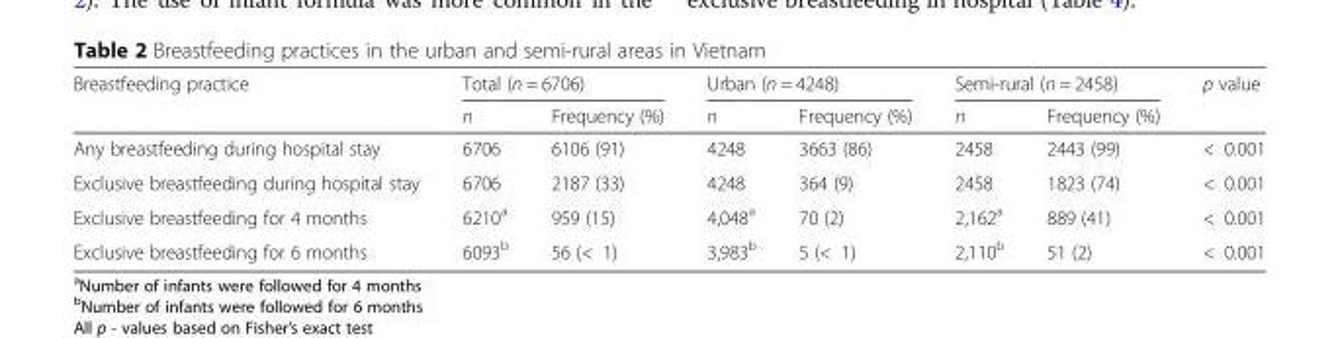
<table><thead><tr><td rowspan="2">Breastfeeding practice</td><td colspan="2">Total (n = 6706)</td><td colspan="2">Urban (n = 4248)</td><td colspan="2">Semi-rural (n = 2458)</td><td rowspan="2">p value</td></tr><tr><td>n</td><td>Frequency (%)</td><td>n</td><td>Frequency (%)</td><td>n</td><td>Frequency (%)</td></tr></thead><tbody><tr><td>Any breastfeeding during hospital stay</td><td>6706</td><td>6106 (91)</td><td>4248</td><td>3663 (86)</td><td>2458</td><td>2443 (99)</td><td>&lt; 0.001</td></tr><tr><td>Exclusive breastfeeding during hospital stay</td><td>6706</td><td>2187 (33)</td><td>4248</td><td>364 (9)</td><td>2458</td><td>1823 (74)</td><td>&lt; 0.001</td></tr><tr><td>Exclusive breastfeeding for 4 months</td><td>6210<sup>a</sup></td><td>959 (15)</td><td>4,048<sup>a</sup></td><td>70 (2)</td><td>2,162<sup>a</sup></td><td>889 (41)</td><td>&lt; 0.001</td></tr><tr><td>Exclusive breastfeeding for 6 months</td><td>6093<sup>b</sup></td><td>56 (&lt; 1)</td><td>3,983<sup>b</sup></td><td>5 (&lt; 1)</td><td>2,110<sup>b</sup></td><td>51 (2)</td><td>&lt; 0.001</td></tr></tbody></table>